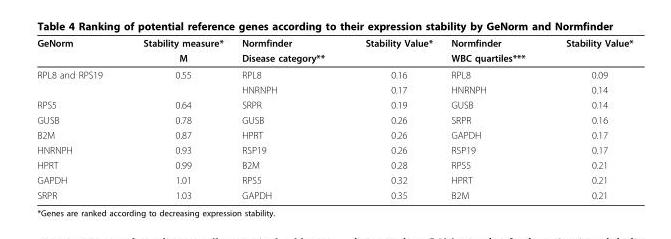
<table><thead><tr><td rowspan="2">GeNorm</td><td rowspan="2">Stability measure* M</td><td rowspan="2">Normfinder Disease category**</td><td rowspan="2">Stability Value*</td><td rowspan="2">Normfinder WBC quartiles***</td><td rowspan="2">Stability Value*</td></tr><tr></tr></thead><tbody><tr><td rowspan="2">RPL8 and RPS19</td><td>0.55</td><td>RPL8</td><td>0.16</td><td>RPL8</td><td>0.09</td></tr><tr><td></td><td>HNRNPH</td><td>0.17</td><td>HNRNPH</td><td>0.14</td></tr><tr><td>RPS5</td><td>0.64</td><td>SRPR</td><td>0.19</td><td>GUSB</td><td>0.14</td></tr><tr><td>GUSB</td><td>0.78</td><td>GUSB</td><td>0.26</td><td>SRPR</td><td>0.16</td></tr><tr><td>B2M</td><td>0.87</td><td>HPRT</td><td>0.26</td><td>GAPDH</td><td>0.17</td></tr><tr><td>HNRNPH</td><td>0.93</td><td>RSP19</td><td>0.26</td><td>RSP19</td><td>0.17</td></tr><tr><td>HPRT</td><td>0.99</td><td>B2M</td><td>0.28</td><td>RPS5</td><td>0.21</td></tr><tr><td>GAPDH</td><td>1.01</td><td>RPS5</td><td>0.32</td><td>HPRT</td><td>0.21</td></tr><tr><td>SRPR</td><td>1.03</td><td>GAPDH</td><td>0.35</td><td>B2M</td><td>0.21</td></tr></tbody></table>